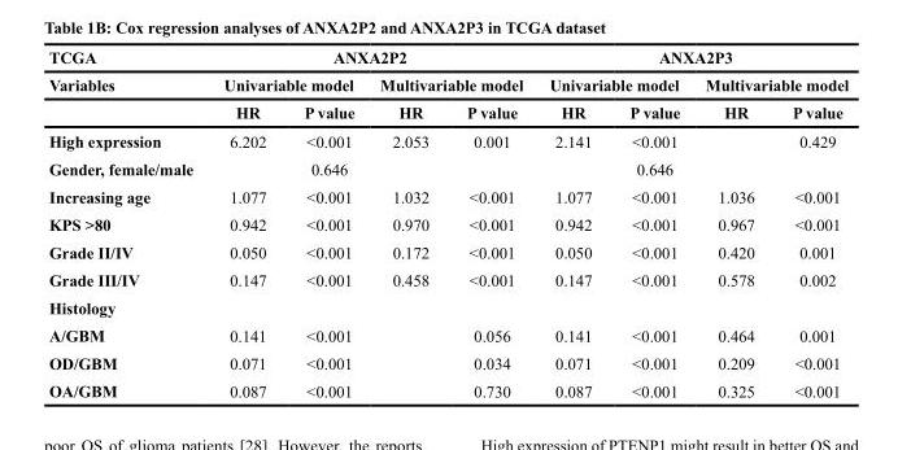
<table><thead><tr><td rowspan="3">TCGA Variables</td><td colspan="4">ANXA2P2</td><td colspan="4">ANXA2P3</td></tr><tr><td colspan="2">Univariable model</td><td colspan="2">Multivariable model</td><td colspan="2">Univariable model</td><td colspan="2">Multivariable model</td></tr><tr><td>HR</td><td>P value</td><td>HR</td><td>P value</td><td>HR</td><td>P value</td><td>HR</td><td>P value</td></tr></thead><tbody><tr><td>High expression</td><td>6.202</td><td>&lt;0.001</td><td>2.053</td><td>0.001</td><td>2.141</td><td>&lt;0.001</td><td></td><td>0.429</td></tr><tr><td>Gender, female/male</td><td></td><td>0.646</td><td></td><td></td><td></td><td>0.646</td><td></td><td></td></tr><tr><td>Increasing age</td><td>1.077</td><td>&lt;0.001</td><td>1.032</td><td>&lt;0.001</td><td>1.077</td><td>&lt;0.001</td><td>1.036</td><td>&lt;0.001</td></tr><tr><td>KPS &gt;80</td><td>0.942</td><td>&lt;0.001</td><td>0.970</td><td>&lt;0.001</td><td>0.942</td><td>&lt;0.001</td><td>0.967</td><td>&lt;0.001</td></tr><tr><td>Grade II/IV</td><td>0.050</td><td>&lt;0.001</td><td>0.172</td><td>&lt;0.001</td><td>0.050</td><td>&lt;0.001</td><td>0.420</td><td>0.001</td></tr><tr><td>Grade III/IV</td><td>0.147</td><td>&lt;0.001</td><td>0.458</td><td>&lt;0.001</td><td>0.147</td><td>&lt;0.001</td><td>0.578</td><td>0.002</td></tr><tr><td colspan="9">Histology</td></tr><tr><td>A/GBM</td><td>0.141</td><td>&lt;0.001</td><td></td><td>0.056</td><td>0.141</td><td>&lt;0.001</td><td>0.464</td><td>0.001</td></tr><tr><td>OD/GBM</td><td>0.071</td><td>&lt;0.001</td><td></td><td>0.034</td><td>0.071</td><td>&lt;0.001</td><td>0.209</td><td>&lt;0.001</td></tr><tr><td>OA/GBM</td><td>0.087</td><td>&lt;0.001</td><td></td><td>0.730</td><td>0.087</td><td>&lt;0.001</td><td>0.325</td><td>&lt;0.001</td></tr></tbody></table>